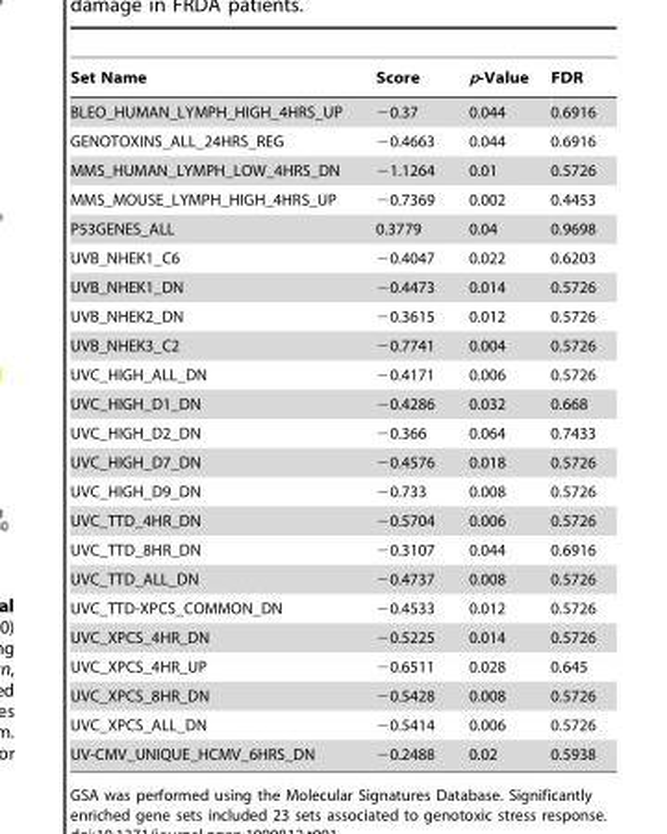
<table><thead><tr><td>Set Name</td><td>Score</td><td>p-Value</td><td>FDR</td></tr></thead><tbody><tr><td>BLEO_HUMAN_LYMPH_HIGH_4HRS_UP</td><td>−0.37</td><td>0.044</td><td>0.6916</td></tr><tr><td>GENOTOXINS_ALL_24HRS_REG</td><td>−0.4663</td><td>0.044</td><td>0.6916</td></tr><tr><td>MMS_HUMAN_LYMPH_LOW_4HRS_DN</td><td>−1.1264</td><td>0.01</td><td>0.5726</td></tr><tr><td>MMS_MOUSE_LYMPH_HIGH_4HRS_UP</td><td>−0.7369</td><td>0.002</td><td>0.4453</td></tr><tr><td>P53GENES_ALL</td><td>0.3779</td><td>0.04</td><td>0.9698</td></tr><tr><td>UVB_NHEK1_C6</td><td>−0.4047</td><td>0.022</td><td>0.6203</td></tr><tr><td>UVB_NHEK1_DN</td><td>−0.4473</td><td>0.014</td><td>0.5726</td></tr><tr><td>UVB_NHEK2_DN</td><td>−0.3615</td><td>0.012</td><td>0.5726</td></tr><tr><td>UVB_NHEK3_C2</td><td>−0.7741</td><td>0.004</td><td>0.5726</td></tr><tr><td>UVC_HIGH_ALL_DN</td><td>−0.4171</td><td>0.006</td><td>0.5726</td></tr><tr><td>UVC_HIGH_D1_DN</td><td>−0.4286</td><td>0.032</td><td>0.668</td></tr><tr><td>UVC_HIGH_D2_DN</td><td>−0.366</td><td>0.064</td><td>0.7433</td></tr><tr><td>UVC_HIGH_D7_DN</td><td>−0.4576</td><td>0.018</td><td>0.5726</td></tr><tr><td>UVC_HIGH_D9_DN</td><td>−0.733</td><td>0.008</td><td>0.5726</td></tr><tr><td>UVC_TTD_4HR_DN</td><td>−0.5704</td><td>0.006</td><td>0.5726</td></tr><tr><td>UVC_TTD_8HR_DN</td><td>−0.3107</td><td>0.044</td><td>0.6916</td></tr><tr><td>UVC_TTD_ALL_DN</td><td>−0.4737</td><td>0.008</td><td>0.5726</td></tr><tr><td>UVC_TTD-XPCS_COMMON_DN</td><td>−0.4533</td><td>0.012</td><td>0.5726</td></tr><tr><td>UVC_XPCS_4HR_DN</td><td>−0.5225</td><td>0.014</td><td>0.5726</td></tr><tr><td>UVC_XPCS_4HR_UP</td><td>−0.6511</td><td>0.028</td><td>0.645</td></tr><tr><td>UVC_XPCS_8HR_DN</td><td>−0.5428</td><td>0.008</td><td>0.5726</td></tr><tr><td>UVC_XPCS_ALL_DN</td><td>−0.5414</td><td>0.006</td><td>0.5726</td></tr><tr><td>UV-CMV_UNIQUE_HCMV_6HRS_DN</td><td>−0.2488</td><td>0.02</td><td>0.5938</td></tr></tbody></table>